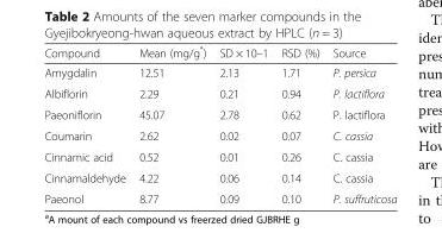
<table><thead><tr><td>Compound</td><td>Mean (mg/g*)</td><td>SD × 10–1</td><td>RSD (%)</td><td>Source</td></tr></thead><tbody><tr><td>Amygdalin</td><td>12.51</td><td>2.13</td><td>1.71</td><td>P. persica</td></tr><tr><td>Albiflorin</td><td>2.29</td><td>0.21</td><td>0.94</td><td>P. lactiflora</td></tr><tr><td>Paeoniflorin</td><td>45.07</td><td>2.78</td><td>0.62</td><td>P. lactiflora</td></tr><tr><td>Coumarin</td><td>2.62</td><td>0.02</td><td>0.07</td><td>C. cassia</td></tr><tr><td>Cinnamic acid</td><td>0.52</td><td>0.01</td><td>0.26</td><td>C. cassia</td></tr><tr><td>Cinnamaldehyde</td><td>4.22</td><td>0.06</td><td>0.14</td><td>C. cassia</td></tr><tr><td>Paeonol</td><td>8.77</td><td>0.09</td><td>0.10</td><td>P. suffruticosa</td></tr></tbody></table>